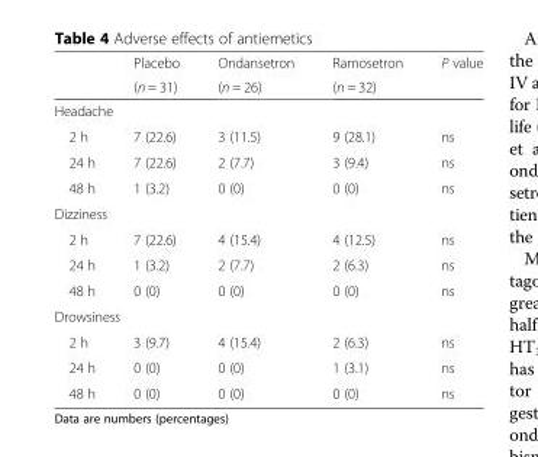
<table><thead><tr><td rowspan="2"></td><td rowspan="2">Placebo (n = 31)</td><td rowspan="2">Ondansetron (n = 26)</td><td rowspan="2">Ramosetron (n = 32)</td><td rowspan="2">P value</td></tr><tr></tr></thead><tbody><tr><td colspan="5">Headache</td></tr><tr><td>2 h</td><td>7 (22.6)</td><td>3 (11.5)</td><td>9 (28.1)</td><td>ns</td></tr><tr><td>24 h</td><td>7 (22.6)</td><td>2 (7.7)</td><td>3 (9.4)</td><td>ns</td></tr><tr><td>48 h</td><td>1 (3.2)</td><td>0 (0)</td><td>0 (0)</td><td>ns</td></tr><tr><td colspan="5">Dizziness</td></tr><tr><td>2 h</td><td>7 (22.6)</td><td>4 (15.4)</td><td>4 (12.5)</td><td>ns</td></tr><tr><td>24 h</td><td>1 (3.2)</td><td>2 (7.7)</td><td>2 (6.3)</td><td>ns</td></tr><tr><td>48 h</td><td>0 (0)</td><td>0 (0)</td><td>0 (0)</td><td>ns</td></tr><tr><td colspan="5">Drowsiness</td></tr><tr><td>2 h</td><td>3 (9.7)</td><td>4 (15.4)</td><td>2 (6.3)</td><td>ns</td></tr><tr><td>24 h</td><td>0 (0)</td><td>0 (0)</td><td>1 (3.1)</td><td>ns</td></tr><tr><td>48 h</td><td>0 (0)</td><td>0 (0)</td><td>0 (0)</td><td>ns</td></tr></tbody></table>